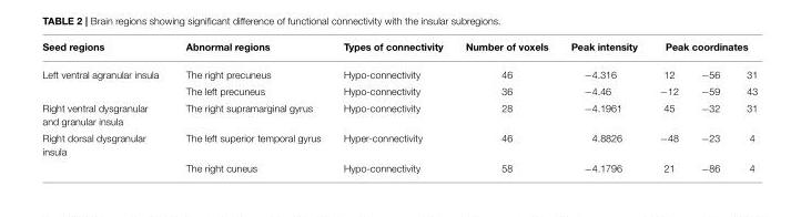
<table><thead><tr><td rowspan="2">Seed regions Left ventral agranular insula</td><td rowspan="2">Abnormal regions The right precuneus</td><td rowspan="2">Types of connectivity Hypo-connectivity</td><td rowspan="2">Number of voxels 46</td><td rowspan="2">Peak intensity −4.316</td><td colspan="3">Peak coordinates</td></tr><tr><td>12</td><td>−56</td><td>31</td></tr></thead><tbody><tr><td></td><td>The left precuneus</td><td>Hypo-connectivity</td><td>36</td><td>−4.46</td><td>−12</td><td>−59</td><td>43</td></tr><tr><td>Right ventral dysgranular and granular insula</td><td>The right supramarginal gyrus</td><td>Hypo-connectivity</td><td>28</td><td>−4.1961</td><td>45</td><td>−32</td><td>31</td></tr><tr><td rowspan="2">Right dorsal dysgranular insula</td><td>The left superior temporal gyrus</td><td>Hyper-connectivity</td><td>46</td><td>4.8826</td><td>−48</td><td>−23</td><td>4</td></tr><tr><td>The right cuneus</td><td>Hypo-connectivity</td><td>58</td><td>−4.1796</td><td>21</td><td>−86</td><td>4</td></tr></tbody></table>